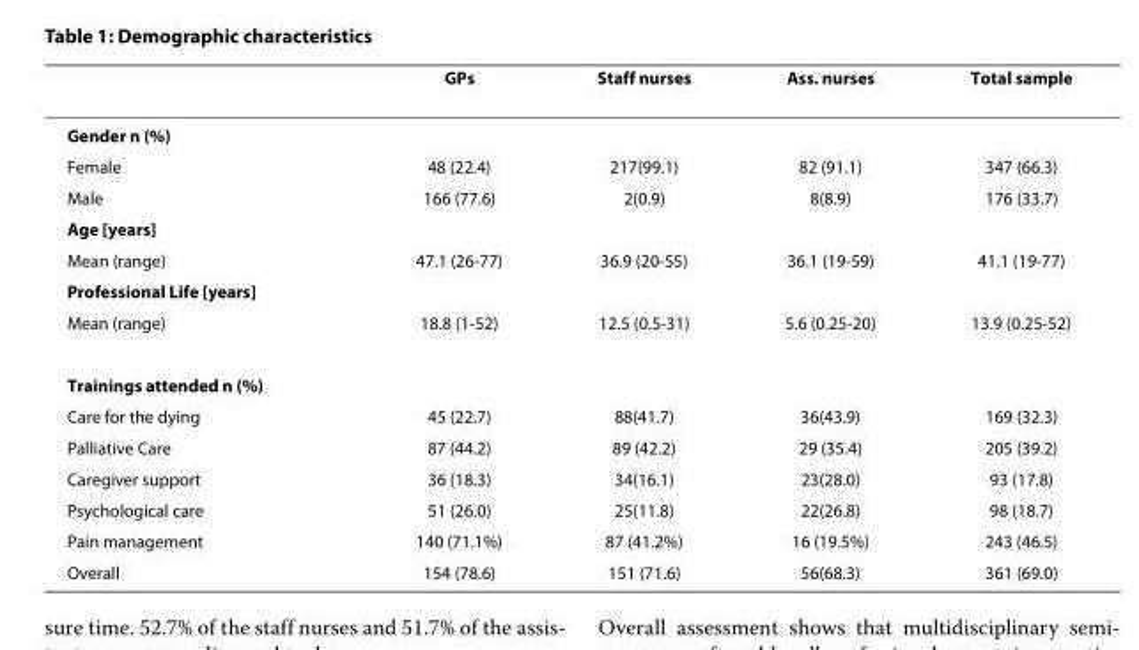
<table><thead><tr><td></td><td>GPs</td><td>Staff nurses</td><td>Ass. nurses</td><td>Total sample</td></tr></thead><tbody><tr><td colspan="5">Gender n (%)</td></tr><tr><td>Female</td><td>48 (22.4)</td><td>217(99.1)</td><td>82 (91.1)</td><td>347 (66.3)</td></tr><tr><td>Male</td><td>166 (77.6)</td><td>2(0.9)</td><td>8(8.9)</td><td>176 (33.7)</td></tr><tr><td colspan="5">Age [years]</td></tr><tr><td>Mean (range)</td><td>47.1 (26-77)</td><td>36.9 (20-55)</td><td>36.1 (19-59)</td><td>41.1 (19-77)</td></tr><tr><td colspan="5">Professional Life [years]</td></tr><tr><td>Mean (range)</td><td>18.8 (1-52)</td><td>12.5 (0.5-31)</td><td>5.6 (0.25-20)</td><td>13.9 (0.25-52)</td></tr><tr><td colspan="5">Trainings attended n (%)</td></tr><tr><td>Care for the dying</td><td>45 (22.7)</td><td>88(41.7)</td><td>36(43.9)</td><td>169 (32.3)</td></tr><tr><td>Palliative Care</td><td>87 (44.2)</td><td>89 (42.2)</td><td>29 (35.4)</td><td>205 (39.2)</td></tr><tr><td>Caregiver support</td><td>36 (18.3)</td><td>34(16.1)</td><td>23(28.0)</td><td>93 (17.8)</td></tr><tr><td>Psychological care</td><td>51 (26.0)</td><td>25(11.8)</td><td>22(26.8)</td><td>98 (18.7)</td></tr><tr><td>Pain management</td><td>140 (71.1%)</td><td>87 (41.2%)</td><td>16 (19.5%)</td><td>243 (46.5)</td></tr><tr><td>Overall</td><td>154 (78.6)</td><td>151 (71.6)</td><td>56(68.3)</td><td>361 (69.0)</td></tr></tbody></table>